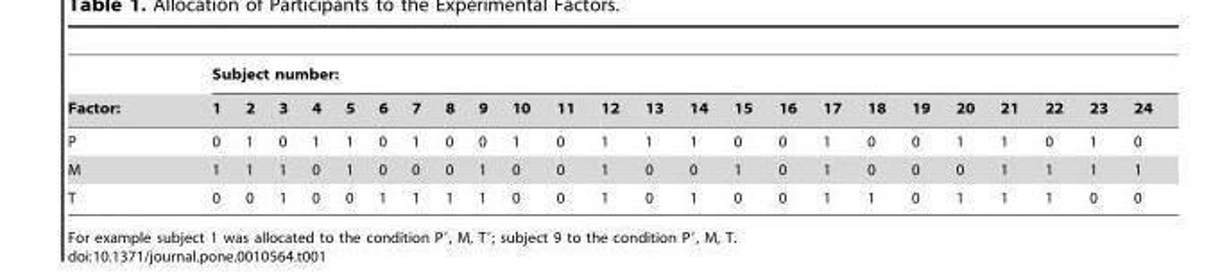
<table><thead><tr><td rowspan="2">Factor:</td><td colspan="24">Subject number:</td></tr><tr><td>1</td><td>2</td><td>3</td><td>4</td><td>5</td><td>6</td><td>7</td><td>8</td><td>9</td><td>10</td><td>11</td><td>12</td><td>13</td><td>14</td><td>15</td><td>16</td><td>17</td><td>18</td><td>19</td><td>20</td><td>21</td><td>22</td><td>23</td><td>24</td></tr></thead><tbody><tr><td>P</td><td>0</td><td>1</td><td>0</td><td>1</td><td>1</td><td>0</td><td>1</td><td>0</td><td>0</td><td>1</td><td>0</td><td>1</td><td>1</td><td>1</td><td>0</td><td>0</td><td>1</td><td>0</td><td>0</td><td>1</td><td>1</td><td>0</td><td>1</td><td>0</td></tr><tr><td>M</td><td>1</td><td>1</td><td>1</td><td>0</td><td>1</td><td>0</td><td>0</td><td>0</td><td>1</td><td>0</td><td>0</td><td>1</td><td>0</td><td>0</td><td>1</td><td>0</td><td>1</td><td>0</td><td>0</td><td>0</td><td>1</td><td>1</td><td>1</td><td>1</td></tr><tr><td>T</td><td>0</td><td>0</td><td>1</td><td>0</td><td>0</td><td>1</td><td>1</td><td>1</td><td>1</td><td>0</td><td>0</td><td>1</td><td>0</td><td>1</td><td>0</td><td>0</td><td>1</td><td>1</td><td>0</td><td>1</td><td>1</td><td>1</td><td>0</td><td>0</td></tr></tbody></table>